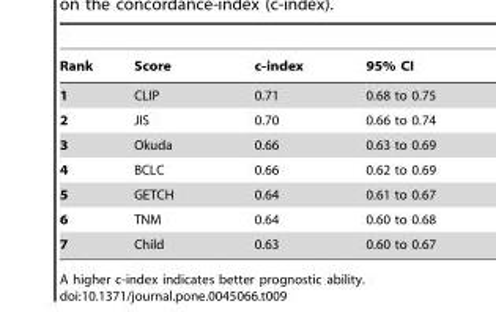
<table><thead><tr><td>Rank</td><td>Score</td><td>c-index</td><td>95% CI</td></tr></thead><tbody><tr><td>1</td><td>CLIP</td><td>0.71</td><td>0.68 to 0.75</td></tr><tr><td>2</td><td>JIS</td><td>0.70</td><td>0.66 to 0.74</td></tr><tr><td>3</td><td>Okuda</td><td>0.66</td><td>0.63 to 0.69</td></tr><tr><td>4</td><td>BCLC</td><td>0.66</td><td>0.62 to 0.69</td></tr><tr><td>5</td><td>GETCH</td><td>0.64</td><td>0.61 to 0.67</td></tr><tr><td>6</td><td>TNM</td><td>0.64</td><td>0.60 to 0.68</td></tr><tr><td>7</td><td>Child</td><td>0.63</td><td>0.60 to 0.67</td></tr></tbody></table>